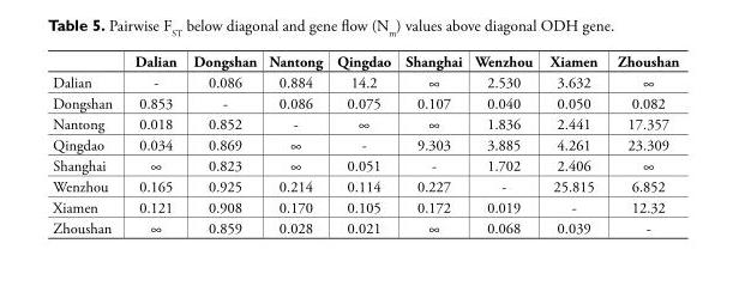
<table><thead><tr><td></td><td>Dalian</td><td>Dongshan</td><td>Nantong</td><td>Qingdao</td><td>Shanghai</td><td>Wenzhou</td><td>Xiamen</td><td>Zhoushan</td></tr></thead><tbody><tr><td>Dalian</td><td>-</td><td>0.086</td><td>0.884</td><td>14.2</td><td>∞</td><td>2.530</td><td>3.632</td><td>∞</td></tr><tr><td>Dongshan</td><td>0.853</td><td>-</td><td>0.086</td><td>0.075</td><td>0.107</td><td>0.040</td><td>0.050</td><td>0.082</td></tr><tr><td>Nantong</td><td>0.018</td><td>0.852</td><td>-</td><td>∞</td><td>∞</td><td>1.836</td><td>2.441</td><td>17.357</td></tr><tr><td>Qingdao</td><td>0.034</td><td>0.869</td><td>∞</td><td>-</td><td>9.303</td><td>3.885</td><td>4.261</td><td>23.309</td></tr><tr><td>Shanghai</td><td>∞</td><td>0.823</td><td>∞</td><td>0.051</td><td>-</td><td>1.702</td><td>2.406</td><td>∞</td></tr><tr><td>Wenzhou</td><td>0.165</td><td>0.925</td><td>0.214</td><td>0.114</td><td>0.227</td><td>-</td><td>25.815</td><td>6.852</td></tr><tr><td>Xiamen</td><td>0.121</td><td>0.908</td><td>0.170</td><td>0.105</td><td>0.172</td><td>0.019</td><td>-</td><td>12.32</td></tr><tr><td>Zhoushan</td><td>∞</td><td>0.859</td><td>0.028</td><td>0.021</td><td>∞</td><td>0.068</td><td>0.039</td><td>-</td></tr></tbody></table>